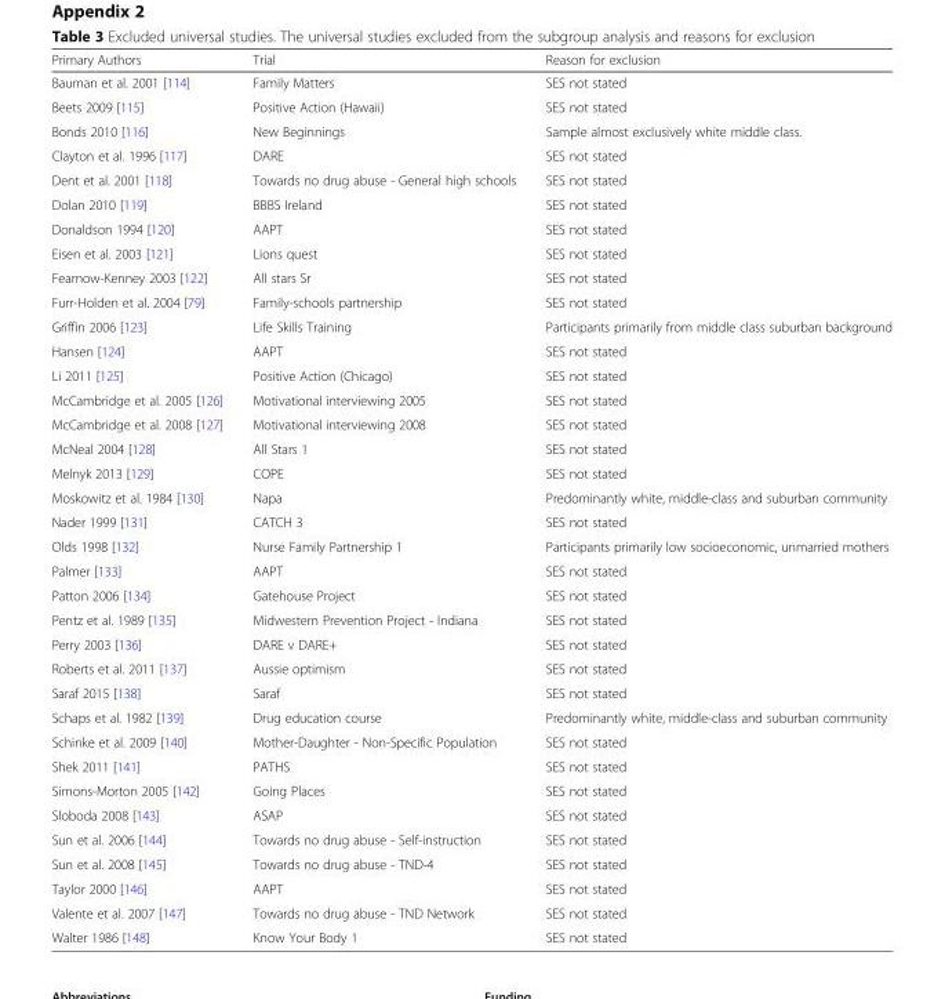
<table><thead><tr><td>Primary Authors</td><td>Trial</td><td>Reason for exclusion</td></tr></thead><tbody><tr><td>Bauman et al. 2001 [114]</td><td>Family Matters</td><td>SES not stated</td></tr><tr><td>Beets 2009 [115]</td><td>Positive Action (Hawaii)</td><td>SES not stated</td></tr><tr><td>Bonds 2010 [116]</td><td>New Beginnings</td><td>Sample almost exclusively white middle class.</td></tr><tr><td>Clayton et al. 1996 [117]</td><td>DARE</td><td>SES not stated</td></tr><tr><td>Dent et al. 2001 [118]</td><td>Towards no drug abuse - General high schools</td><td>SES not stated</td></tr><tr><td>Dolan 2010 [119]</td><td>BBBS Ireland</td><td>SES not stated</td></tr><tr><td>Donaldson 1994 [120]</td><td>AAPT</td><td>SES not stated</td></tr><tr><td>Eisen et al. 2003 [121]</td><td>Lions quest</td><td>SES not stated</td></tr><tr><td>Fearnow-Kenney 2003 [122]</td><td>All stars Sr</td><td>SES not stated</td></tr><tr><td>Furr-Holden et al. 2004 [79]</td><td>Family-schools partnership</td><td>SES not stated</td></tr><tr><td>Griffin 2006 [123]</td><td>Life Skills Training</td><td>Participants primarily from middle class suburban background</td></tr><tr><td>Hansen [124]</td><td>AAPT</td><td>SES not stated</td></tr><tr><td>Li 2011 [125]</td><td>Positive Action (Chicago)</td><td>SES not stated</td></tr><tr><td>McCambridge et al. 2005 [126]</td><td>Motivational interviewing 2005</td><td>SES not stated</td></tr><tr><td>McCambridge et al. 2008 [127]</td><td>Motivational interviewing 2008</td><td>SES not stated</td></tr><tr><td>McNeal 2004 [128]</td><td>All Stars 1</td><td>SES not stated</td></tr><tr><td>Melnyk 2013 [129]</td><td>COPE</td><td>SES not stated</td></tr><tr><td>Moskowitz et al. 1984 [130]</td><td>Napa</td><td>Predominantly white, middle-class and suburban community</td></tr><tr><td>Nader 1999 [131]</td><td>CATCH 3</td><td>SES not stated</td></tr><tr><td>Olds 1998 [132]</td><td>Nurse Family Partnership 1</td><td>Participants primarily low socioeconomic, unmarried mothers</td></tr><tr><td>Palmer [133]</td><td>AAPT</td><td>SES not stated</td></tr><tr><td>Patton 2006 [134]</td><td>Gatehouse Project</td><td>SES not stated</td></tr><tr><td>Pentz et al. 1989 [135]</td><td>Midwestern Prevention Project - Indiana</td><td>SES not stated</td></tr><tr><td>Perry 2003 [136]</td><td>DARE v DARE+</td><td>SES not stated</td></tr><tr><td>Roberts et al. 2011 [137]</td><td>Aussie optimism</td><td>SES not stated</td></tr><tr><td>Saraf 2015 [138]</td><td>Saraf</td><td>SES not stated</td></tr><tr><td>Schaps et al. 1982 [139]</td><td>Drug education course</td><td>Predominantly white, middle-class and suburban community</td></tr><tr><td>Schinke et al. 2009 [140]</td><td>Mother-Daughter - Non-Specific Population</td><td>SES not stated</td></tr><tr><td>Shek 2011 [141]</td><td>PATHS</td><td>SES not stated</td></tr><tr><td>Simons-Morton 2005 [142]</td><td>Going Places</td><td>SES not stated</td></tr><tr><td>Sloboda 2008 [143]</td><td>ASAP</td><td>SES not stated</td></tr><tr><td>Sun et al. 2006 [144]</td><td>Towards no drug abuse - Self-instruction</td><td>SES not stated</td></tr><tr><td>Sun et al. 2008 [145]</td><td>Towards no drug abuse - TND-4</td><td>SES not stated</td></tr><tr><td>Taylor 2000 [146]</td><td>AAPT</td><td>SES not stated</td></tr><tr><td>Valente et al. 2007 [147]</td><td>Towards no drug abuse - TND Network</td><td>SES not stated</td></tr><tr><td>Walter 1986 [148]</td><td>Know Your Body 1</td><td>SES not stated</td></tr></tbody></table>